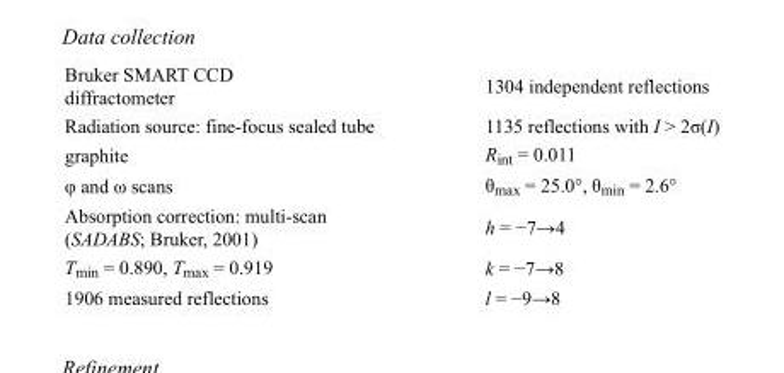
<table><tbody><tr><td>Bruker SMART CCD diffractometer</td><td>1304 independent reflections</td></tr><tr><td>Radiation source: fine-focus sealed tube</td><td>1135 reflections with I &gt; 2σ(I)</td></tr><tr><td>graphite</td><td>R<sub>int</sub> = 0.011</td></tr><tr><td>φ and ω scans</td><td>θ<sub>max</sub> = 25.0°, θ<sub>min</sub> = 2.6°</td></tr><tr><td>Absorption correction: multi-scan (SADABS; Bruker, 2001)</td><td>h = −7→4</td></tr><tr><td>T<sub>min</sub> = 0.890, T<sub>max</sub> = 0.919</td><td>k = −7→8</td></tr><tr><td>1906 measured reflections</td><td>l = −9→8</td></tr></tbody></table>